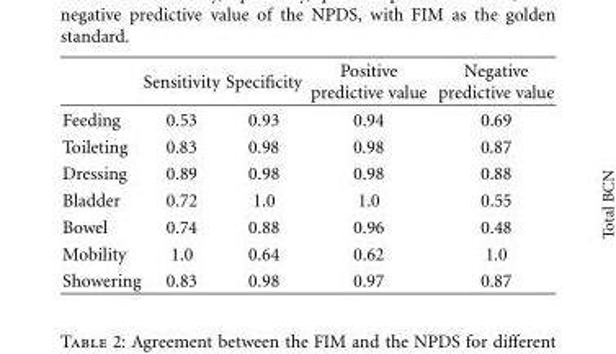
<table><thead><tr><td></td><td>Sensitivity</td><td>Specificity</td><td>Positive predictive value</td><td>Negative predictive value</td></tr></thead><tbody><tr><td>Feeding</td><td>0.53</td><td>0.93</td><td>0.94</td><td>0.69</td></tr><tr><td>Toileting</td><td>0.83</td><td>0.98</td><td>0.98</td><td>0.87</td></tr><tr><td>Dressing</td><td>0.89</td><td>0.98</td><td>0.98</td><td>0.88</td></tr><tr><td>Bladder</td><td>0.72</td><td>1.0</td><td>1.0</td><td>0.55</td></tr><tr><td>Bowel</td><td>0.74</td><td>0.88</td><td>0.96</td><td>0.48</td></tr><tr><td>Mobility</td><td>1.0</td><td>0.64</td><td>0.62</td><td>1.0</td></tr><tr><td>Showering</td><td>0.83</td><td>0.98</td><td>0.97</td><td>0.87</td></tr></tbody></table>